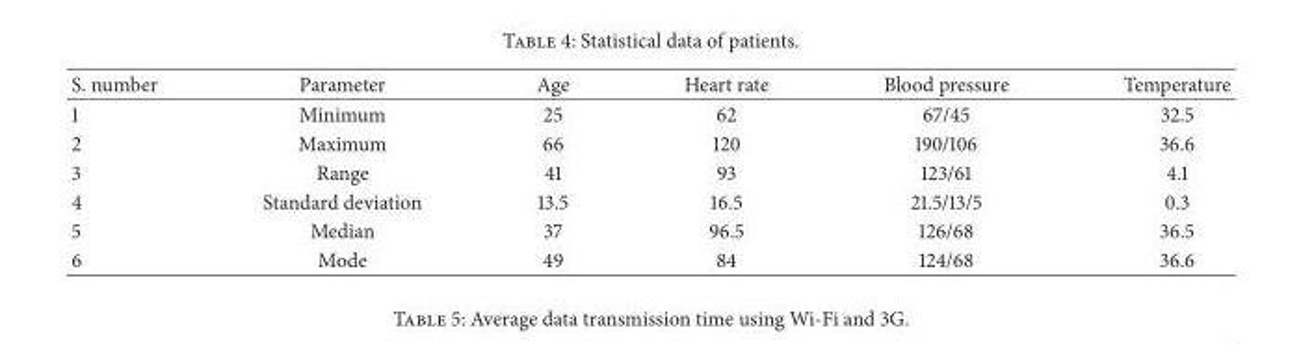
<table><thead><tr><td>S. number</td><td>Parameter</td><td>Age</td><td>Heart rate</td><td>Blood pressure</td><td>Temperature</td></tr></thead><tbody><tr><td>1</td><td>Minimum</td><td>25</td><td>62</td><td>67/45</td><td>32.5</td></tr><tr><td>2</td><td>Maximum</td><td>66</td><td>120</td><td>190/106</td><td>36.6</td></tr><tr><td>3</td><td>Range</td><td>41</td><td>93</td><td>123/61</td><td>4.1</td></tr><tr><td>4</td><td>Standard deviation</td><td>13.5</td><td>16.5</td><td>21.5/13/5</td><td>0.3</td></tr><tr><td>5</td><td>Median</td><td>37</td><td>96.5</td><td>126/68</td><td>36.5</td></tr><tr><td>6</td><td>Mode</td><td>49</td><td>84</td><td>124/68</td><td>36.6</td></tr></tbody></table>